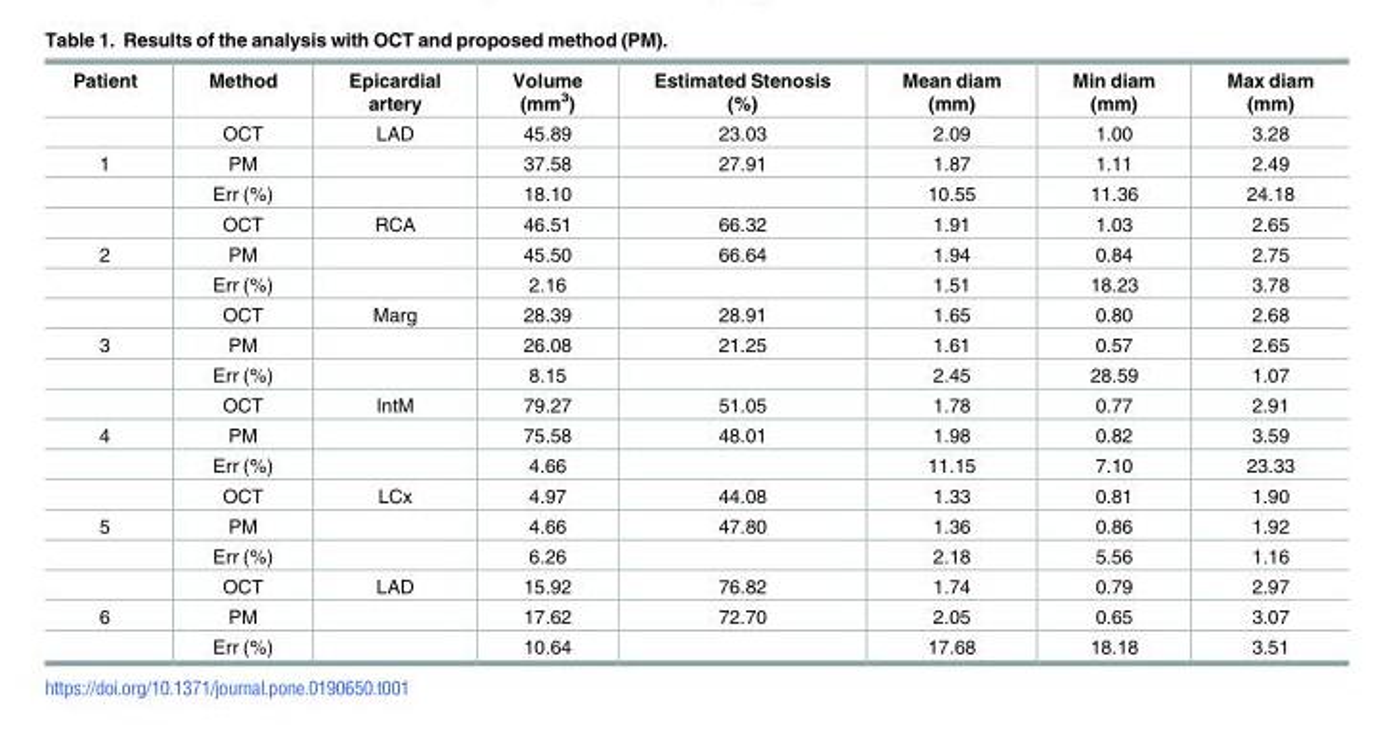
<table><thead><tr><td>Patient</td><td>Method</td><td>Epicardial artery</td><td>Volume (mm<sup>3</sup>)</td><td>Estimated Stenosis (%)</td><td>Mean diam (mm)</td><td>Min diam (mm)</td><td>Max diam (mm)</td></tr></thead><tbody><tr><td></td><td>OCT</td><td>LAD</td><td>45.89</td><td>23.03</td><td>2.09</td><td>1.00</td><td>3.28</td></tr><tr><td rowspan="3">1</td><td>PM</td><td></td><td>37.58</td><td>27.91</td><td>1.87</td><td>1.11</td><td>2.49</td></tr><tr><td>Err (%)</td><td></td><td>18.10</td><td></td><td>10.55</td><td>11.36</td><td>24.18</td></tr><tr><td>OCT</td><td>RCA</td><td>46.51</td><td>66.32</td><td>1.91</td><td>1.03</td><td>2.65</td></tr><tr><td rowspan="3">2</td><td>PM</td><td></td><td>45.50</td><td>66.64</td><td>1.94</td><td>0.84</td><td>2.75</td></tr><tr><td>Err (%)</td><td></td><td>2.16</td><td></td><td>1.51</td><td>18.23</td><td>3.78</td></tr><tr><td>OCT</td><td>Marg</td><td>28.39</td><td>28.91</td><td>1.65</td><td>0.80</td><td>2.68</td></tr><tr><td rowspan="3">3</td><td>PM</td><td></td><td>26.08</td><td>21.25</td><td>1.61</td><td>0.57</td><td>2.65</td></tr><tr><td>Err (%)</td><td></td><td>8.15</td><td></td><td>2.45</td><td>28.59</td><td>1.07</td></tr><tr><td>OCT</td><td>IntM</td><td>79.27</td><td>51.05</td><td>1.78</td><td>0.77</td><td>2.91</td></tr><tr><td rowspan="3">4</td><td>PM</td><td></td><td>75.58</td><td>48.01</td><td>1.98</td><td>0.82</td><td>3.59</td></tr><tr><td>Err (%)</td><td></td><td>4.66</td><td></td><td>11.15</td><td>7.10</td><td>23.33</td></tr><tr><td>OCT</td><td>LCx</td><td>4.97</td><td>44.08</td><td>1.33</td><td>0.81</td><td>1.90</td></tr><tr><td rowspan="3">5</td><td>PM</td><td></td><td>4.66</td><td>47.80</td><td>1.36</td><td>0.86</td><td>1.92</td></tr><tr><td>Err (%)</td><td></td><td>6.26</td><td></td><td>2.18</td><td>5.56</td><td>1.16</td></tr><tr><td>OCT</td><td>LAD</td><td>15.92</td><td>76.82</td><td>1.74</td><td>0.79</td><td>2.97</td></tr><tr><td rowspan="2">6</td><td>PM</td><td></td><td>17.62</td><td>72.70</td><td>2.05</td><td>0.65</td><td>3.07</td></tr><tr><td>Err (%)</td><td></td><td>10.64</td><td></td><td>17.68</td><td>18.18</td><td>3.51</td></tr></tbody></table>